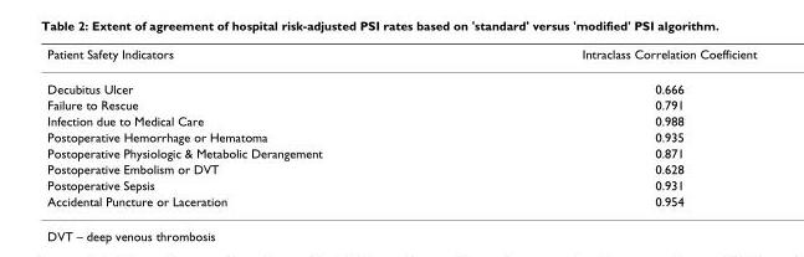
<table><thead><tr><td>Patient Safety Indicators</td><td>Intraclass Correlation Coefficient</td></tr></thead><tbody><tr><td>Decubitus Ulcer</td><td>0.666</td></tr><tr><td>Failure to Rescue</td><td>0.791</td></tr><tr><td>Infection due to Medical Care</td><td>0.988</td></tr><tr><td>Postoperative Hemorrhage or Hematoma</td><td>0.935</td></tr><tr><td>Postoperative Physiologic &amp; Metabolic Derangement</td><td>0.871</td></tr><tr><td>Postoperative Embolism or DVT</td><td>0.628</td></tr><tr><td>Postoperative Sepsis</td><td>0.931</td></tr><tr><td>Accidental Puncture or Laceration</td><td>0.954</td></tr></tbody></table>